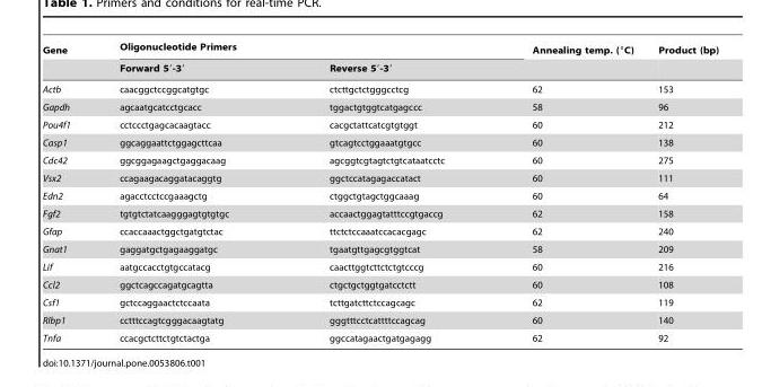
<table><thead><tr><td rowspan="2">Gene</td><td colspan="2">Oligonucleotide Primers</td><td rowspan="2">Annealing temp. (°C)</td><td rowspan="2">Product (bp)</td></tr><tr><td>Forward 5′-3′</td><td>Reverse 5′-3′</td></tr></thead><tbody><tr><td>Actb</td><td>caacggctccggcatgtgc</td><td>ctcttgctctgggcctcg</td><td>62</td><td>153</td></tr><tr><td>Gapdh</td><td>agcaatgcatcctgcacc</td><td>tggactgtggtcatgagccc</td><td>58</td><td>96</td></tr><tr><td>Pou4f1</td><td>cctccctgagcacaagtacc</td><td>cacgctattcatcgtgtggt</td><td>60</td><td>212</td></tr><tr><td>Casp1</td><td>ggcaggaattctggagcttcaa</td><td>gtcagtcctggaaatgtgcc</td><td>60</td><td>138</td></tr><tr><td>Cdc42</td><td>ggcggagaagctgaggacaag</td><td>agcggtcgtagtctgtcataatcctc</td><td>60</td><td>275</td></tr><tr><td>Vsx2</td><td>ccagaagacaggatacaggtg</td><td>ggctccatagagaccatact</td><td>60</td><td>111</td></tr><tr><td>Edn2</td><td>agacctcctccgaaagctg</td><td>ctggctgtagctggcaaag</td><td>60</td><td>64</td></tr><tr><td>Fgf2</td><td>tgtgtctatcaagggagtgtgtgc</td><td>accaactggagtatttccgtgaccg</td><td>62</td><td>158</td></tr><tr><td>Gfap</td><td>ccaccaaactggctgatgtctac</td><td>ttctctccaaatccacacgagc</td><td>62</td><td>240</td></tr><tr><td>Gnat1</td><td>gaggatgctgagaaggatgc</td><td>tgaatgttgagcgtggtcat</td><td>58</td><td>209</td></tr><tr><td>Lif</td><td>aatgccacctgtgccatacg</td><td>caacttggtcttctctgtcccg</td><td>60</td><td>216</td></tr><tr><td>Ccl2</td><td>ggctcagccagatgcagtta</td><td>ctgctgctggtgatcctctt</td><td>60</td><td>108</td></tr><tr><td>Csf1</td><td>gctccaggaactctccaata</td><td>tcttgatcttctccagcagc</td><td>62</td><td>119</td></tr><tr><td>Rlbp1</td><td>cctttccagtcgggacaagtatg</td><td>gggtttcctcattttccagcag</td><td>60</td><td>140</td></tr><tr><td>Tnfa</td><td>ccacgctcttctgtctactga</td><td>ggccatagaactgatgagagg</td><td>62</td><td>92</td></tr></tbody></table>